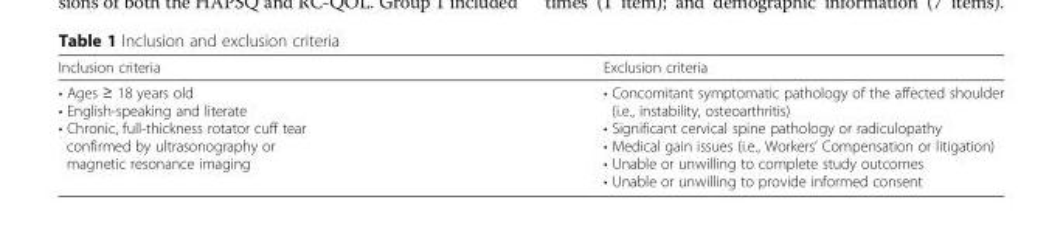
<table><thead><tr><td>Inclusion criteria</td><td>Exclusion criteria</td></tr></thead><tbody><tr><td>• Ages ≥ 18 years old • English-speaking and literate • Chronic, full-thickness rotator cuff tear confirmed by ultrasonography or magnetic resonance imaging</td><td>• Concomitant symptomatic pathology of the affected shoulder (i.e., instability, osteoarthritis) • Significant cervical spine pathology or radiculopathy • Medical gain issues (i.e., Workers’ Compensation or litigation) • Unable or unwilling to complete study outcomes • Unable or unwilling to provide informed consent</td></tr></tbody></table>